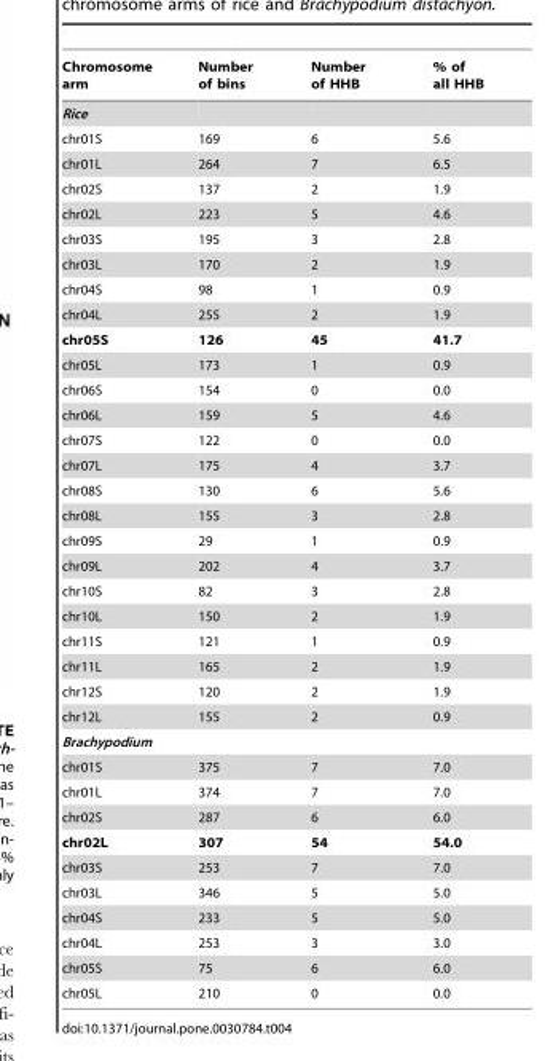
<table><thead><tr><td>Chromosome arm</td><td>Number of bins</td><td>Number of HHB</td><td>% of all HHB</td></tr></thead><tbody><tr><td colspan="4">Rice</td></tr><tr><td>chr01S</td><td>169</td><td>6</td><td>5.6</td></tr><tr><td>chr01L</td><td>264</td><td>7</td><td>6.5</td></tr><tr><td>chr02S</td><td>137</td><td>2</td><td>1.9</td></tr><tr><td>chr02L</td><td>223</td><td>5</td><td>4.6</td></tr><tr><td>chr03S</td><td>195</td><td>3</td><td>2.8</td></tr><tr><td>chr03L</td><td>170</td><td>2</td><td>1.9</td></tr><tr><td>chr04S</td><td>98</td><td>1</td><td>0.9</td></tr><tr><td>chr04L</td><td>255</td><td>2</td><td>1.9</td></tr><tr><td>chr05S</td><td>126</td><td>45</td><td>41.7</td></tr><tr><td>chr05L</td><td>173</td><td>1</td><td>0.9</td></tr><tr><td>chr06S</td><td>154</td><td>0</td><td>0.0</td></tr><tr><td>chr06L</td><td>159</td><td>5</td><td>4.6</td></tr><tr><td>chr07S</td><td>122</td><td>0</td><td>0.0</td></tr><tr><td>chr07L</td><td>175</td><td>4</td><td>3.7</td></tr><tr><td>chr08S</td><td>130</td><td>6</td><td>5.6</td></tr><tr><td>chr08L</td><td>155</td><td>3</td><td>2.8</td></tr><tr><td>chr09S</td><td>29</td><td>1</td><td>0.9</td></tr><tr><td>chr09L</td><td>202</td><td>4</td><td>3.7</td></tr><tr><td>chr10S</td><td>82</td><td>3</td><td>2.8</td></tr><tr><td>chr10L</td><td>150</td><td>2</td><td>1.9</td></tr><tr><td>chr11S</td><td>121</td><td>1</td><td>0.9</td></tr><tr><td>chr11L</td><td>165</td><td>2</td><td>1.9</td></tr><tr><td>chr12S</td><td>120</td><td>2</td><td>1.9</td></tr><tr><td>chr12L</td><td>155</td><td>2</td><td>0.9</td></tr><tr><td colspan="4">Brachypodium</td></tr><tr><td>chr01S</td><td>375</td><td>7</td><td>7.0</td></tr><tr><td>chr01L</td><td>374</td><td>7</td><td>7.0</td></tr><tr><td>chr02S</td><td>287</td><td>6</td><td>6.0</td></tr><tr><td>chr02L</td><td>307</td><td>54</td><td>54.0</td></tr><tr><td>chr03S</td><td>253</td><td>7</td><td>7.0</td></tr><tr><td>chr03L</td><td>346</td><td>5</td><td>5.0</td></tr><tr><td>chr04S</td><td>233</td><td>5</td><td>5.0</td></tr><tr><td>chr04L</td><td>253</td><td>3</td><td>3.0</td></tr><tr><td>chr05S</td><td>75</td><td>6</td><td>6.0</td></tr><tr><td>chr05L</td><td>210</td><td>0</td><td>0.0</td></tr></tbody></table>